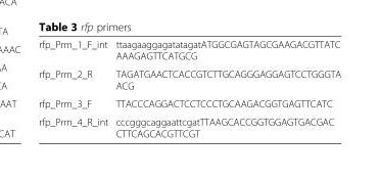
<table><tbody><tr><td>rfp_Prm_1_F_int</td><td>ttaagaaggagatatagatATGGCGAGTAGCGAAGACGTTATC AAAGAGTTCATGCG</td></tr><tr><td>rfp_Prm_2_R</td><td>TAGATGAACTCACCGTCTTGCAGGGAGGAGTCCTGGGTA ACG</td></tr><tr><td>rfp_Prm_3_F</td><td>TTACCCAGGACTCCTCCCTGCAAGACGGTGAGTTCATC</td></tr><tr><td>rfp_Prm_4_R_int</td><td>cccgggcaggaattcgatTTAAGCACCGGTGGAGTGACGAC CTTCAGCACGTTCGT</td></tr></tbody></table>